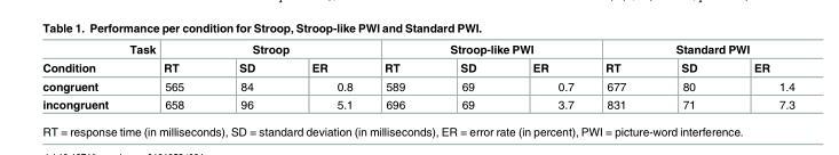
<table><thead><tr><td rowspan="2">Task Condition</td><td colspan="3">Stroop</td><td colspan="3">Stroop-like PWI</td><td colspan="3">Standard PWI</td></tr><tr><td>RT</td><td>SD</td><td>ER</td><td>RT</td><td>SD</td><td>ER</td><td>RT</td><td>SD</td><td>ER</td></tr></thead><tbody><tr><td>congruent</td><td>565</td><td>84</td><td>0.8</td><td>589</td><td>69</td><td>0.7</td><td>677</td><td>80</td><td>1.4</td></tr><tr><td>incongruent</td><td>658</td><td>96</td><td>5.1</td><td>696</td><td>69</td><td>3.7</td><td>831</td><td>71</td><td>7.3</td></tr></tbody></table>